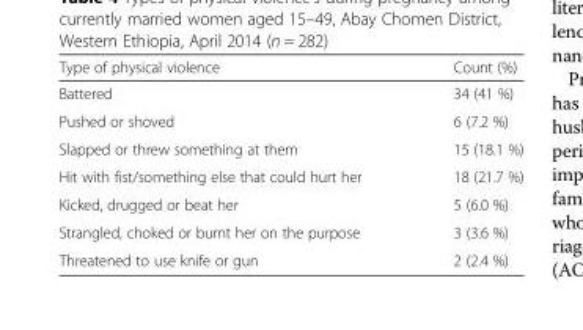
<table><thead><tr><td>Type of physical violence</td><td>Count (%)</td></tr></thead><tbody><tr><td>Battered</td><td>34 (41 %)</td></tr><tr><td>Pushed or shoved</td><td>6 (7.2 %)</td></tr><tr><td>Slapped or threw something at them</td><td>15 (18.1 %)</td></tr><tr><td>Hit with fist/something else that could hurt her</td><td>18 (21.7 %)</td></tr><tr><td>Kicked, drugged or beat her</td><td>5 (6.0 %)</td></tr><tr><td>Strangled, choked or burnt her on the purpose</td><td>3 (3.6 %)</td></tr><tr><td>Threatened to use knife or gun</td><td>2 (2.4 %)</td></tr></tbody></table>